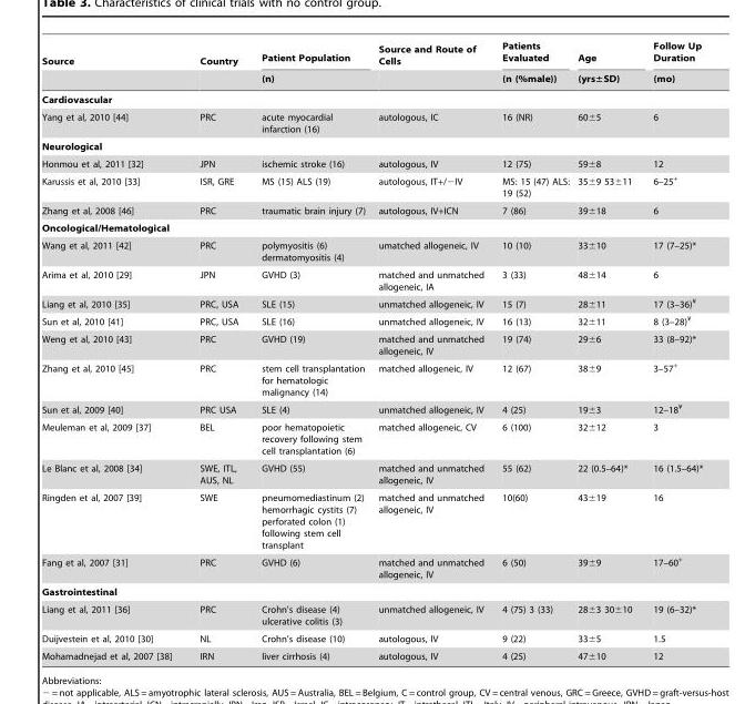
<table><thead><tr><td rowspan="2">Source</td><td rowspan="2">Country</td><td rowspan="2">Patient Population (n)</td><td rowspan="2">Source and Route of Cells</td><td rowspan="2">Patients Evaluated (n (%male))</td><td rowspan="2">Age (yrs±SD)</td><td rowspan="2">Follow Up Duration (mo)</td></tr><tr></tr></thead><tbody><tr><td colspan="7">Cardiovascular</td></tr><tr><td>Yang et al, 2010 [44]</td><td>PRC</td><td>acute myocardial infarction (16)</td><td>autologous, IC</td><td>16 (NR)</td><td>60±5</td><td>6</td></tr><tr><td colspan="7">Neurological</td></tr><tr><td>Honmou et al, 2011 [32]</td><td>JPN</td><td>ischemic stroke (16)</td><td>autologous, IV</td><td>12 (75)</td><td>59±8</td><td>12</td></tr><tr><td>Karussis et al, 2010 [33]</td><td>ISR, GRE</td><td>MS (15) ALS (19)</td><td>autologous, IT+/−IV</td><td>MS: 15 (47) ALS: 19 (52)</td><td>35±9 53±11</td><td>6–25+</td></tr><tr><td>Zhang et al, 2008 [46]</td><td>PRC</td><td>traumatic brain injury (7)</td><td>autologous, IV+ICN</td><td>7 (86)</td><td>39±18</td><td>6</td></tr><tr><td colspan="7">Oncological/Hematological</td></tr><tr><td>Wang et al, 2011 [42]</td><td>PRC</td><td>polymyositis (6) dermatomyositis (4)</td><td>umatched allogeneic, IV</td><td>10 (10)</td><td>33±10</td><td>17 (7–25)*</td></tr><tr><td>Arima et al, 2010 [29]</td><td>JPN</td><td>GVHD (3)</td><td>matched and unmatched allogeneic, IA</td><td>3 (33)</td><td>48±14</td><td>6</td></tr><tr><td>Liang et al, 2010 [35]</td><td>PRC, USA</td><td>SLE (15)</td><td>unmatched allogeneic, IV</td><td>15 (7)</td><td>28±11</td><td>17 (3–36)¥</td></tr><tr><td>Sun et al, 2010 [41]</td><td>PRC, USA</td><td>SLE (16)</td><td>unmatched allogeneic, IV</td><td>16 (13)</td><td>32±11</td><td>8 (3–28)¥</td></tr><tr><td>Weng et al, 2010 [43]</td><td>PRC</td><td>GVHD (19)</td><td>matched and unmatched allogeneic, IV</td><td>19 (74)</td><td>29±6</td><td>33 (8–92)*</td></tr><tr><td>Zhang et al, 2010 [45]</td><td>PRC</td><td>stem cell transplantation for hematologic malignancy (14)</td><td>matched allogeneic, IV</td><td>12 (67)</td><td>38±9</td><td>3–57+</td></tr><tr><td>Sun et al, 2009 [40]</td><td>PRC USA</td><td>SLE (4)</td><td>unmatched allogeneic, IV</td><td>4 (25)</td><td>19±3</td><td>12–18¥</td></tr><tr><td>Meuleman et al, 2009 [37]</td><td>BEL</td><td>poor hematopoietic recovery following stem cell transplantation (6)</td><td>matched allogeneic, CV</td><td>6 (100)</td><td>32±12</td><td>3</td></tr><tr><td>Le Blanc et al, 2008 [34]</td><td>SWE, ITL, AUS, NL</td><td>GVHD (55)</td><td>matched and unmatched allogeneic, IV</td><td>55 (62)</td><td>22 (0.5–64)*</td><td>16 (1.5–64)*</td></tr><tr><td>Ringden et al, 2007 [39]</td><td>SWE</td><td>pneumomediastinum (2) hemorrhagic cystits (7) perforated colon (1) following stem cell transplant</td><td>matched and unmatched allogeneic, IV</td><td>10(60)</td><td>43±19</td><td>16</td></tr><tr><td>Fang et al, 2007 [31]</td><td>PRC</td><td>GVHD (6)</td><td>matched and unmatched allogeneic, IV</td><td>6 (50)</td><td>39±9</td><td>17–60+</td></tr><tr><td colspan="7">Gastrointestinal</td></tr><tr><td>Liang et al, 2011 [36]</td><td>PRC</td><td>Crohn’s disease (4) ulcerative colitis (3)</td><td>unmatched allogeneic, IV</td><td>4 (75) 3 (33)</td><td>28±3 30±10</td><td>19 (6–32)*</td></tr><tr><td>Duijvestein et al, 2010 [30]</td><td>NL</td><td>Crohn’s disease (10)</td><td>autologous, IV</td><td>9 (22)</td><td>33±5</td><td>1.5</td></tr><tr><td>Mohamadnejad et al, 2007 [38]</td><td>IRN</td><td>liver cirrhosis (4)</td><td>autologous, IV</td><td>4 (25)</td><td>47±10</td><td>12</td></tr></tbody></table>